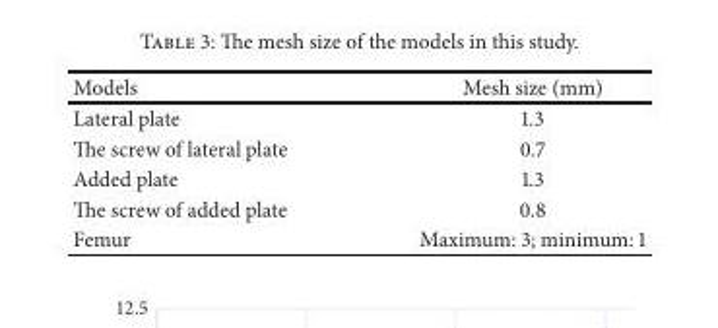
<table><thead><tr><td>Models</td><td>Mesh size (mm)</td></tr></thead><tbody><tr><td>Lateral plate</td><td>1.3</td></tr><tr><td>The screw of lateral plate</td><td>0.7</td></tr><tr><td>Added plate</td><td>1.3</td></tr><tr><td>The screw of added plate</td><td>0.8</td></tr><tr><td>Femur</td><td>Maximum: 3; minimum: 1</td></tr></tbody></table>